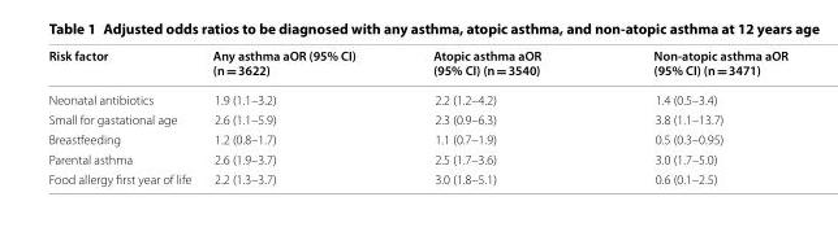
<table><thead><tr><td>Risk factor</td><td>Any asthma aOR (95% CI) (n = 3622)</td><td>Atopic asthma aOR (95% CI) (n = 3540)</td><td>Non-atopic asthma aOR (95% CI) (n = 3471)</td></tr></thead><tbody><tr><td>Neonatal antibiotics</td><td>1.9 (1.1–3.2)</td><td>2.2 (1.2–4.2)</td><td>1.4 (0.5–3.4)</td></tr><tr><td>Small for gastational age</td><td>2.6 (1.1–5.9)</td><td>2.3 (0.9–6.3)</td><td>3.8 (1.1–13.7)</td></tr><tr><td>Breastfeeding</td><td>1.2 (0.8–1.7)</td><td>1.1 (0.7–1.9)</td><td>0.5 (0.3–0.95)</td></tr><tr><td>Parental asthma</td><td>2.6 (1.9–3.7)</td><td>2.5 (1.7–3.6)</td><td>3.0 (1.7–5.0)</td></tr><tr><td>Food allergy first year of life</td><td>2.2 (1.3–3.7)</td><td>3.0 (1.8–5.1)</td><td>0.6 (0.1–2.5)</td></tr></tbody></table>